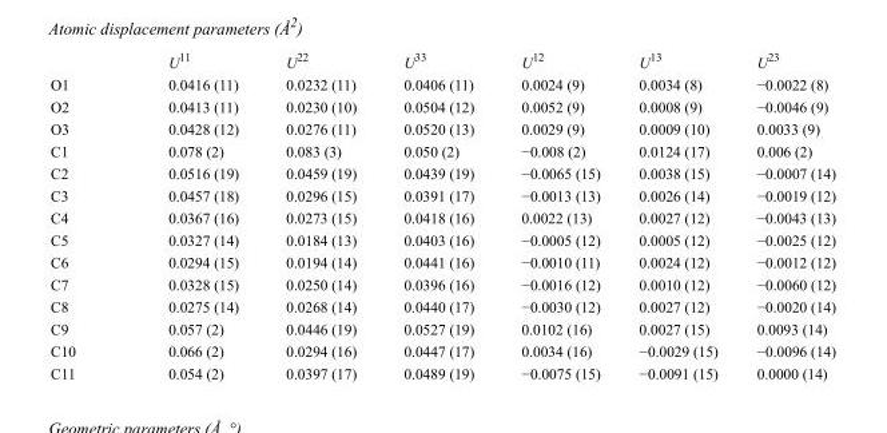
<table><thead><tr><td></td><td>U<sup>11</sup></td><td>U<sup>22</sup></td><td>U<sup>33</sup></td><td>U<sup>12</sup></td><td>U<sup>13</sup></td><td>U<sup>23</sup></td></tr></thead><tbody><tr><td>O1</td><td>0.0416 (11)</td><td>0.0232 (11)</td><td>0.0406 (11)</td><td>0.0024 (9)</td><td>0.0034 (8)</td><td>−0.0022 (8)</td></tr><tr><td>O2</td><td>0.0413 (11)</td><td>0.0230 (10)</td><td>0.0504 (12)</td><td>0.0052 (9)</td><td>0.0008 (9)</td><td>−0.0046 (9)</td></tr><tr><td>O3</td><td>0.0428 (12)</td><td>0.0276 (11)</td><td>0.0520 (13)</td><td>0.0029 (9)</td><td>0.0009 (10)</td><td>0.0033 (9)</td></tr><tr><td>C1</td><td>0.078 (2)</td><td>0.083 (3)</td><td>0.050 (2)</td><td>−0.008 (2)</td><td>0.0124 (17)</td><td>0.006 (2)</td></tr><tr><td>C2</td><td>0.0516 (19)</td><td>0.0459 (19)</td><td>0.0439 (19)</td><td>−0.0065 (15)</td><td>0.0038 (15)</td><td>−0.0007 (14)</td></tr><tr><td>C3</td><td>0.0457 (18)</td><td>0.0296 (15)</td><td>0.0391 (17)</td><td>−0.0013 (13)</td><td>0.0026 (14)</td><td>−0.0019 (12)</td></tr><tr><td>C4</td><td>0.0367 (16)</td><td>0.0273 (15)</td><td>0.0418 (16)</td><td>0.0022 (13)</td><td>0.0027 (12)</td><td>−0.0043 (13)</td></tr><tr><td>C5</td><td>0.0327 (14)</td><td>0.0184 (13)</td><td>0.0403 (16)</td><td>−0.0005 (12)</td><td>0.0005 (12)</td><td>−0.0025 (12)</td></tr><tr><td>C6</td><td>0.0294 (15)</td><td>0.0194 (14)</td><td>0.0441 (16)</td><td>−0.0010 (11)</td><td>0.0024 (12)</td><td>−0.0012 (12)</td></tr><tr><td>C7</td><td>0.0328 (15)</td><td>0.0250 (14)</td><td>0.0396 (16)</td><td>−0.0016 (12)</td><td>0.0010 (12)</td><td>−0.0060 (12)</td></tr><tr><td>C8</td><td>0.0275 (14)</td><td>0.0268 (14)</td><td>0.0440 (17)</td><td>−0.0030 (12)</td><td>0.0027 (12)</td><td>−0.0020 (14)</td></tr><tr><td>C9</td><td>0.057 (2)</td><td>0.0446 (19)</td><td>0.0527 (19)</td><td>0.0102 (16)</td><td>0.0027 (15)</td><td>0.0093 (14)</td></tr><tr><td>C10</td><td>0.066 (2)</td><td>0.0294 (16)</td><td>0.0447 (17)</td><td>0.0034 (16)</td><td>−0.0029 (15)</td><td>−0.0096 (14)</td></tr><tr><td>C11</td><td>0.054 (2)</td><td>0.0397 (17)</td><td>0.0489 (19)</td><td>−0.0075 (15)</td><td>−0.0091 (15)</td><td>0.0000 (14)</td></tr></tbody></table>